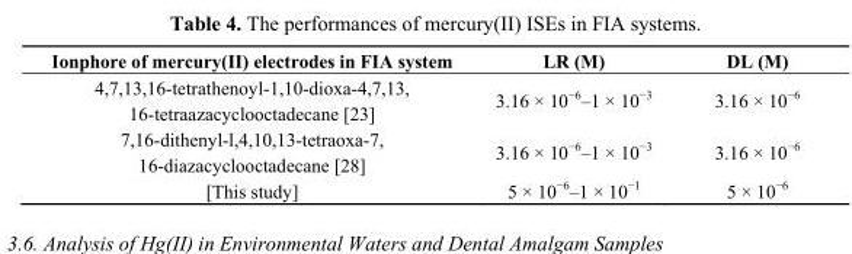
<table><thead><tr><td>Ionphore of mercury(II) electrodes in FIA system</td><td>LR (M)</td><td>DL (M)</td></tr></thead><tbody><tr><td>4,7,13,16-tetrathenoyl-1,10-dioxa-4,7,13, 16-tetraazacyclooctadecane [23]</td><td>3.16 × 10<sup>−6</sup>–1 × 10<sup>−3</sup></td><td>3.16 × 10<sup>−6</sup></td></tr><tr><td>7,16-dithenyl-l,4,10,13-tetraoxa-7, 16-diazacyclooctadecane [28]</td><td>3.16 × 10<sup>−6</sup>–1 × 10<sup>−3</sup></td><td>3.16 × 10<sup>−6</sup></td></tr><tr><td>[This study]</td><td>5 × 10<sup>−6</sup>–1 × 10<sup>−1</sup></td><td>5 × 10<sup>−6</sup></td></tr></tbody></table>